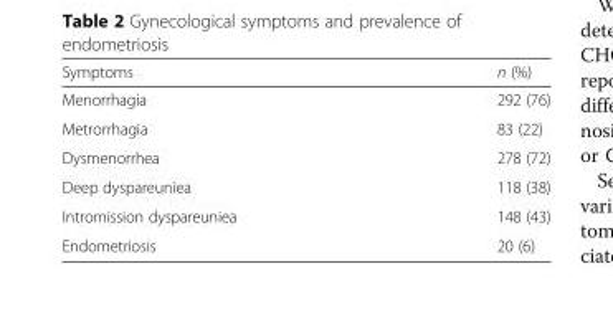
<table><thead><tr><td>Symptoms</td><td>n (%)</td></tr></thead><tbody><tr><td>Menorrhagia</td><td>292 (76)</td></tr><tr><td>Metrorrhagia</td><td>83 (22)</td></tr><tr><td>Dysmenorrhea</td><td>278 (72)</td></tr><tr><td>Deep dyspareuniea</td><td>118 (38)</td></tr><tr><td>Intromission dyspareuniea</td><td>148 (43)</td></tr><tr><td>Endometriosis</td><td>20 (6)</td></tr></tbody></table>